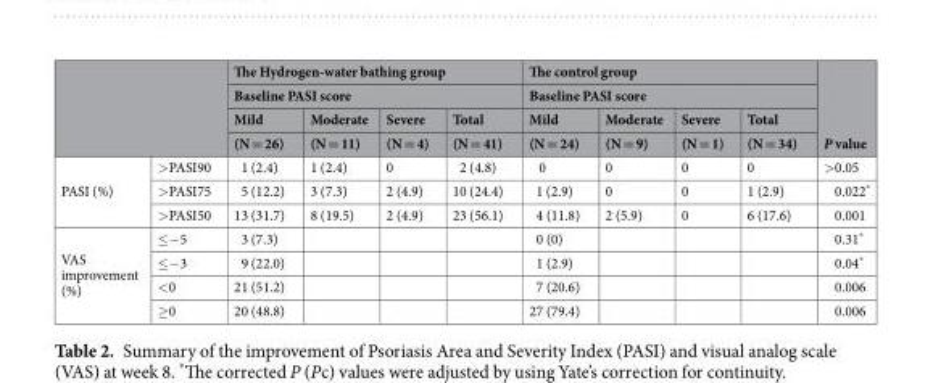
<table><thead><tr><td rowspan="4"></td><td rowspan="4"></td><td rowspan="2" colspan="4">The Hydrogen-water bathing group Baseline PASI score</td><td rowspan="2" colspan="4">The control group Baseline PASI score</td><td rowspan="4">P value</td></tr><tr></tr><tr><td rowspan="2">Mild (N = 26)</td><td rowspan="2">Moderate (N = 11)</td><td rowspan="2">Severe (N = 4)</td><td rowspan="2">Total (N = 41)</td><td rowspan="2">Mild (N = 24)</td><td rowspan="2">Moderate (N = 9)</td><td rowspan="2">Severe (N = 1)</td><td rowspan="2">Total (N = 34)</td></tr><tr></tr></thead><tbody><tr><td rowspan="3">PASI (%)</td><td>&gt;PASI90</td><td>1 (2.4)</td><td>1 (2.4)</td><td>0</td><td>2 (4.8)</td><td>0</td><td>0</td><td>0</td><td>0</td><td>&gt;0.05</td></tr><tr><td>&gt;PASI75</td><td>5 (12.2)</td><td>3 (7.3)</td><td>2 (4.9)</td><td>10 (24.4)</td><td>1 (2.9)</td><td>0</td><td>0</td><td>1 (2.9)</td><td>0.022*</td></tr><tr><td>&gt;PASI50</td><td>13 (31.7)</td><td>8 (19.5)</td><td>2 (4.9)</td><td>23 (56.1)</td><td>4 (11.8)</td><td>2 (5.9)</td><td>0</td><td>6 (17.6)</td><td>0.001</td></tr><tr><td rowspan="4">VAS improvement (%)</td><td>≤−5</td><td>3 (7.3)</td><td></td><td></td><td></td><td>0 (0)</td><td></td><td></td><td></td><td>0.31*</td></tr><tr><td>≤−3</td><td>9 (22.0)</td><td></td><td></td><td></td><td>1 (2.9)</td><td></td><td></td><td></td><td>0.04*</td></tr><tr><td>&lt;0</td><td>21 (51.2)</td><td></td><td></td><td></td><td>7 (20.6)</td><td></td><td></td><td></td><td>0.006</td></tr><tr><td>≥0</td><td>20 (48.8)</td><td></td><td></td><td></td><td>27 (79.4)</td><td></td><td></td><td></td><td>0.006</td></tr></tbody></table>